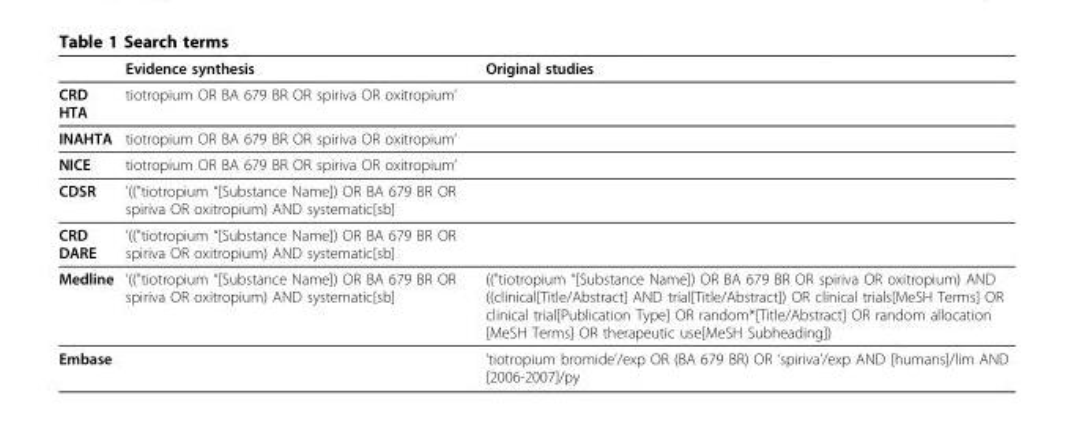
<table><thead><tr><td></td><td>Evidence synthesis</td><td>Original studies</td></tr></thead><tbody><tr><td>CRD HTA</td><td>tiotropium OR BA 679 BR OR spiriva OR oxitropium’</td><td></td></tr><tr><td>INAHTA</td><td>tiotropium OR BA 679 BR OR spiriva OR oxitropium’</td><td></td></tr><tr><td>NICE</td><td>tiotropium OR BA 679 BR OR spiriva OR oxitropium’</td><td></td></tr><tr><td>CDSR</td><td>’((&quot;tiotropium “[Substance Name]) OR BA 679 BR OR spiriva OR oxitropium) AND systematic[sb]</td><td></td></tr><tr><td>CRD DARE</td><td>’((&quot;tiotropium “[Substance Name]) OR BA 679 BR OR spiriva OR oxitropium) AND systematic[sb]</td><td></td></tr><tr><td>Medline</td><td>’((&quot;tiotropium “[Substance Name]) OR BA 679 BR OR spiriva OR oxitropium) AND systematic[sb]</td><td>((&quot;tiotropium “[Substance Name]) OR BA 679 BR OR spiriva OR oxitropium) AND ((clinical[Title/Abstract] AND trial[Title/Abstract]) OR clinical trials[MeSH Terms] OR clinical trial[Publication Type] OR random*[Title/Abstract] OR random allocation [MeSH Terms] OR therapeutic use[MeSH Subheading])</td></tr><tr><td>Embase</td><td></td><td>’tiotropium bromide’/exp OR (BA 679 BR) OR ‘spiriva’/exp AND [humans]/lim AND [2006-2007]/py</td></tr></tbody></table>